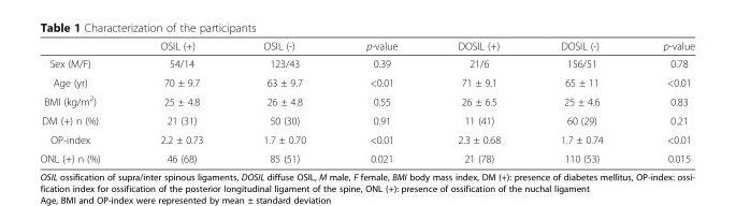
<table><thead><tr><td></td><td>OSIL (+)</td><td>OSIL (-)</td><td>p-value</td><td>DOSIL (+)</td><td>DOSIL (-)</td><td>p-value</td></tr></thead><tbody><tr><td>Sex (M/F)</td><td>54/14</td><td>123/43</td><td>0.39</td><td>21/6</td><td>156/51</td><td>0.78</td></tr><tr><td>Age (yr)</td><td>70 ± 9.7</td><td>63 ± 9.7</td><td>&lt;0.01</td><td>71 ± 9.1</td><td>65 ± 11</td><td>&lt;0.01</td></tr><tr><td>BMI (kg/m<sup>2</sup>)</td><td>25 ± 4.8</td><td>26 ± 4.8</td><td>0.55</td><td>26 ± 6.5</td><td>25 ± 4.6</td><td>0.83</td></tr><tr><td>DM (+) n (%)</td><td>21 (31)</td><td>50 (30)</td><td>0.91</td><td>11 (41)</td><td>60 (29)</td><td>0.21</td></tr><tr><td>OP-index</td><td>2.2 ± 0.73</td><td>1.7 ± 0.70</td><td>&lt;0.01</td><td>2.3 ± 0.68</td><td>1.7 ± 0.74</td><td>&lt;0.01</td></tr><tr><td>ONL (+) n (%)</td><td>46 (68)</td><td>85 (51)</td><td>0.021</td><td>21 (78)</td><td>110 (53)</td><td>0.015</td></tr></tbody></table>